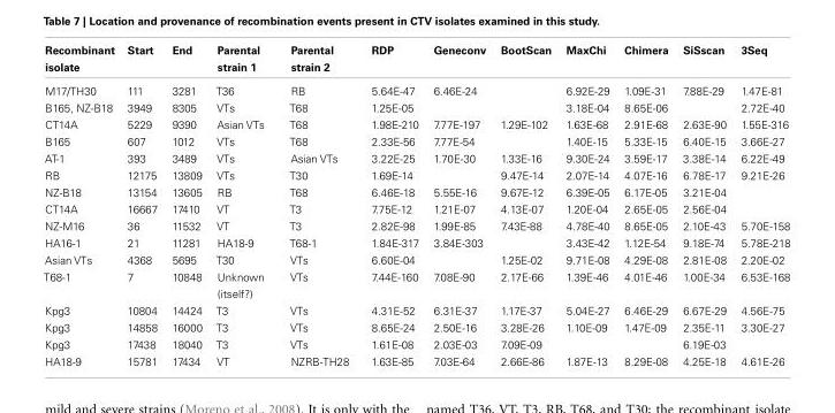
<table><thead><tr><td>Recombinant isolate</td><td>Start</td><td>End</td><td>Parental strain 1</td><td>Parental strain 2</td><td>RDP</td><td>Geneconv</td><td>BootScan</td><td>MaxChi</td><td>Chimera</td><td>SiSscan</td><td>3Seq</td></tr></thead><tbody><tr><td>M17/TH30</td><td>111</td><td>3281</td><td>T36</td><td>RB</td><td>5.64E-47</td><td>6.46E-24</td><td></td><td>6.92E-29</td><td>1.09E-31</td><td>7.88E-29</td><td>1.47E-81</td></tr><tr><td>B165, NZ-B18</td><td>3949</td><td>8305</td><td>VTs</td><td>T68</td><td>1.25E-05</td><td></td><td></td><td>3.18E-04</td><td>8.65E-06</td><td></td><td>2.72E-40</td></tr><tr><td>CT14A</td><td>5229</td><td>9390</td><td>Asian VTs</td><td>T68</td><td>1.98E-210</td><td>7.77E-197</td><td>1.29E-102</td><td>1.63E-68</td><td>2.91E-68</td><td>2.63E-90</td><td>1.55E-316</td></tr><tr><td>B165</td><td>607</td><td>1012</td><td>VTs</td><td>T68</td><td>2.33E-56</td><td>7.77E-54</td><td></td><td>1.40E-15</td><td>5.33E-15</td><td>6.40E-15</td><td>3.66E-27</td></tr><tr><td>AT-1</td><td>393</td><td>3489</td><td>VTs</td><td>Asian VTs</td><td>3.22E-25</td><td>1.70E-30</td><td>1.33E-16</td><td>9.30E-24</td><td>3.59E-17</td><td>3.38E-14</td><td>6.22E-49</td></tr><tr><td>RB</td><td>12175</td><td>13809</td><td>VTs</td><td>T30</td><td>1.69E-14</td><td></td><td>9.47E-14</td><td>2.07E-14</td><td>4.07E-16</td><td>6.78E-17</td><td>9.21E-26</td></tr><tr><td>NZ-B18</td><td>13154</td><td>13605</td><td>RB</td><td>T68</td><td>6.46E-18</td><td>5.55E-16</td><td>9.67E-12</td><td>6.39E-05</td><td>6.17E-05</td><td>3.21E-04</td><td></td></tr><tr><td>CT14A</td><td>16667</td><td>17410</td><td>VT</td><td>T3</td><td>7.75E-12</td><td>1.21E-07</td><td>4.13E-07</td><td>1.20E-04</td><td>2.65E-05</td><td>2.56E-04</td><td></td></tr><tr><td>NZ-M16</td><td>36</td><td>11532</td><td>VT</td><td>T3</td><td>2.82E-98</td><td>1.99E-85</td><td>7.43E-88</td><td>4.78E-40</td><td>8.65E-05</td><td>2.10E-43</td><td>5.70E-158</td></tr><tr><td>HA16-1</td><td>21</td><td>11281</td><td>HA18-9</td><td>T68-1</td><td>1.84E-317</td><td>3.84E-303</td><td></td><td>3.43E-42</td><td>1.12E-54</td><td>9.18E-74</td><td>5.78E-218</td></tr><tr><td>Asian VTs</td><td>4368</td><td>5695</td><td>T30</td><td>VTs</td><td>6.60E-04</td><td></td><td>1.25E-02</td><td>9.71E-08</td><td>4.29E-08</td><td>2.81E-08</td><td>2.20E-02</td></tr><tr><td>T68-1</td><td>7</td><td>10848</td><td>Unknown (itself?)</td><td>VTs</td><td>7.44E-160</td><td>7.08E-90</td><td>2.17E-66</td><td>1.39E-46</td><td>4.01E-46</td><td>1.00E-34</td><td>6.53E-168</td></tr><tr><td>Kpg3</td><td>10804</td><td>14424</td><td>T3</td><td>VTs</td><td>4.31E-52</td><td>6.31E-37</td><td>1.17E-37</td><td>5.04E-27</td><td>6.46E-29</td><td>6.67E-29</td><td>4.56E-75</td></tr><tr><td>Kpg3</td><td>14858</td><td>16000</td><td>T3</td><td>VTs</td><td>8.65E-24</td><td>2.50E-16</td><td>3.28E-26</td><td>1.10E-09</td><td>1.47E-09</td><td>2.35E-11</td><td>3.30E-27</td></tr><tr><td>Kpg3</td><td>17438</td><td>18040</td><td>T3</td><td>VTs</td><td>1.61E-08</td><td>2.03E-03</td><td>7.09E-09</td><td></td><td></td><td>6.19E-03</td><td></td></tr><tr><td>HA18-9</td><td>15781</td><td>17434</td><td>VT</td><td>NZRB-TH28</td><td>1.63E-85</td><td>7.03E-64</td><td>2.66E-86</td><td>1.87E-13</td><td>8.29E-08</td><td>4.25E-18</td><td>4.61E-26</td></tr></tbody></table>